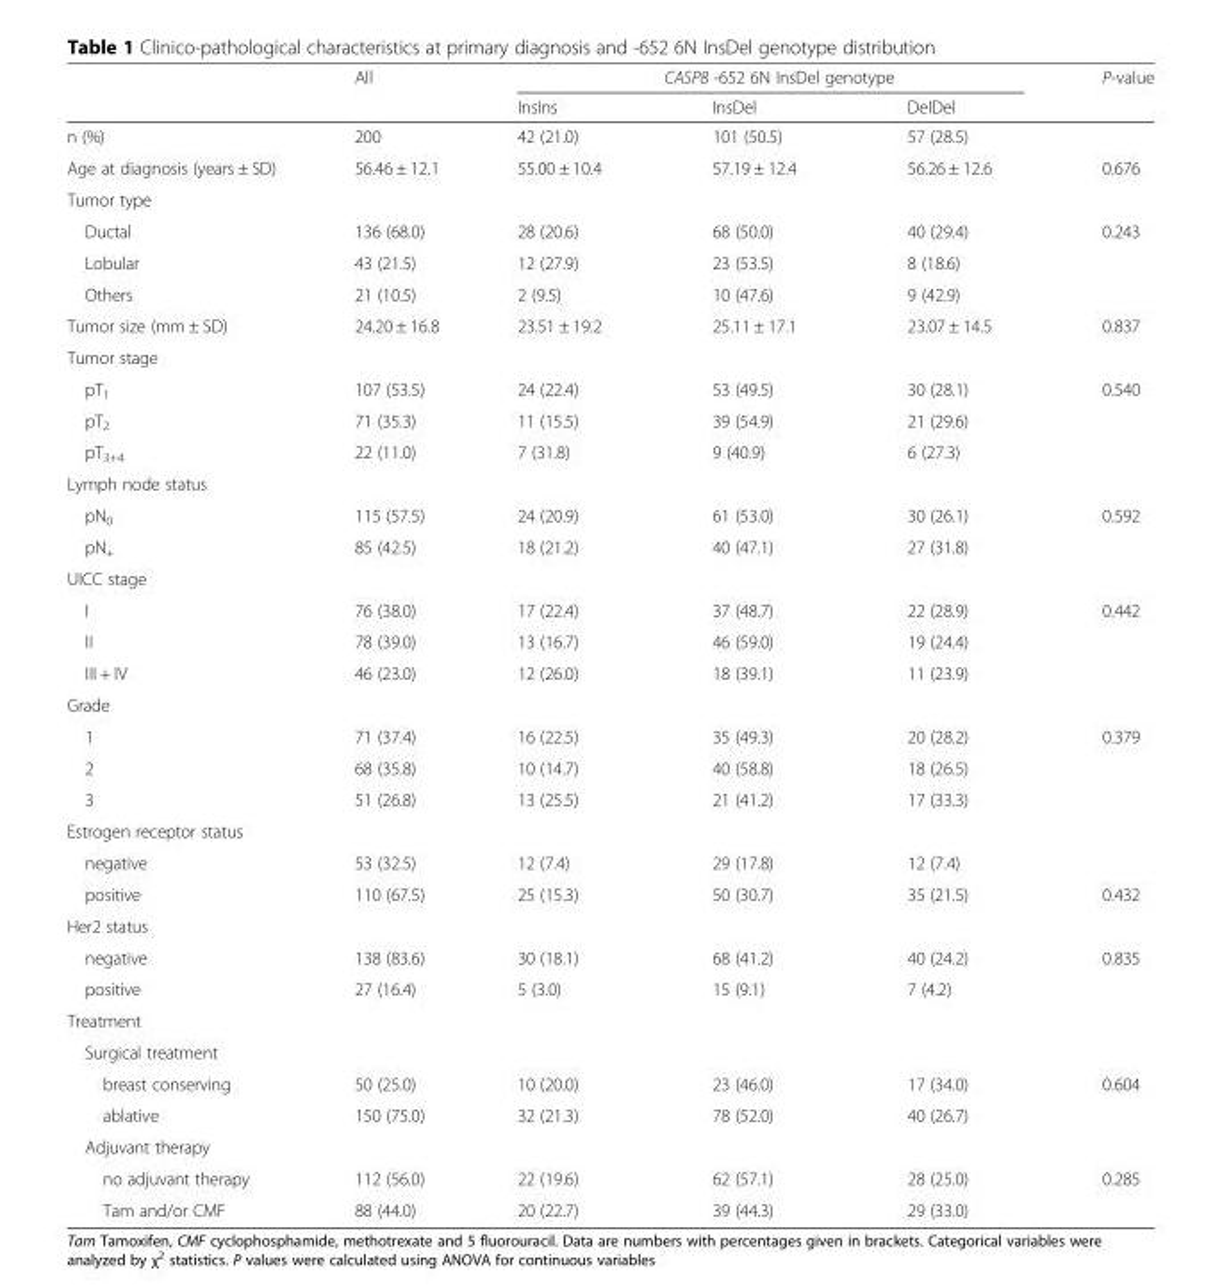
<table><thead><tr><td rowspan="2"></td><td rowspan="2">All</td><td colspan="3">CASP8 -652 6N InsDel genotype</td><td rowspan="2">P-value</td></tr><tr><td>InsIns</td><td>InsDel</td><td>DelDel</td></tr></thead><tbody><tr><td>n (%)</td><td>200</td><td>42 (21.0)</td><td>101 (50.5)</td><td>57 (28.5)</td><td></td></tr><tr><td>Age at diagnosis (years ± SD)</td><td>56.46 ± 12.1</td><td>55.00 ± 10.4</td><td>57.19 ± 12.4</td><td>56.26 ± 12.6</td><td>0.676</td></tr><tr><td colspan="6">Tumor type</td></tr><tr><td>Ductal</td><td>136 (68.0)</td><td>28 (20.6)</td><td>68 (50.0)</td><td>40 (29.4)</td><td rowspan="3">0.243</td></tr><tr><td>Lobular</td><td>43 (21.5)</td><td>12 (27.9)</td><td>23 (53.5)</td><td>8 (18.6)</td></tr><tr><td>Others</td><td>21 (10.5)</td><td>2 (9.5)</td><td>10 (47.6)</td><td>9 (42.9)</td></tr><tr><td>Tumor size (mm ± SD)</td><td>24.20 ± 16.8</td><td>23.51 ± 19.2</td><td>25.11 ± 17.1</td><td>23.07 ± 14.5</td><td>0.837</td></tr><tr><td colspan="6">Tumor stage</td></tr><tr><td>pT<sub>1</sub></td><td>107 (53.5)</td><td>24 (22.4)</td><td>53 (49.5)</td><td>30 (28.1)</td><td rowspan="3">0.540</td></tr><tr><td>pT<sub>2</sub></td><td>71 (35.3)</td><td>11 (15.5)</td><td>39 (54.9)</td><td>21 (29.6)</td></tr><tr><td>pT<sub>3+4</sub></td><td>22 (11.0)</td><td>7 (31.8)</td><td>9 (40.9)</td><td>6 (27.3)</td></tr><tr><td colspan="6">Lymph node status</td></tr><tr><td>pN<sub>0</sub></td><td>115 (57.5)</td><td>24 (20.9)</td><td>61 (53.0)</td><td>30 (26.1)</td><td rowspan="2">0.592</td></tr><tr><td>pN<sub>+</sub></td><td>85 (42.5)</td><td>18 (21.2)</td><td>40 (47.1)</td><td>27 (31.8)</td></tr><tr><td colspan="6">UICC stage</td></tr><tr><td>I</td><td>76 (38.0)</td><td>17 (22.4)</td><td>37 (48.7)</td><td>22 (28.9)</td><td rowspan="3">0.442</td></tr><tr><td>II</td><td>78 (39.0)</td><td>13 (16.7)</td><td>46 (59.0)</td><td>19 (24.4)</td></tr><tr><td>III + IV</td><td>46 (23.0)</td><td>12 (26.0)</td><td>18 (39.1)</td><td>11 (23.9)</td></tr><tr><td colspan="6">Grade</td></tr><tr><td>1</td><td>71 (37.4)</td><td>16 (22.5)</td><td>35 (49.3)</td><td>20 (28.2)</td><td rowspan="3">0.379</td></tr><tr><td>2</td><td>68 (35.8)</td><td>10 (14.7)</td><td>40 (58.8)</td><td>18 (26.5)</td></tr><tr><td>3</td><td>51 (26.8)</td><td>13 (25.5)</td><td>21 (41.2)</td><td>17 (33.3)</td></tr><tr><td colspan="6">Estrogen receptor status</td></tr><tr><td>negative</td><td>53 (32.5)</td><td>12 (7.4)</td><td>29 (17.8)</td><td>12 (7.4)</td><td></td></tr><tr><td>positive</td><td>110 (67.5)</td><td>25 (15.3)</td><td>50 (30.7)</td><td>35 (21.5)</td><td>0.432</td></tr><tr><td colspan="6">Her2 status</td></tr><tr><td>negative</td><td>138 (83.6)</td><td>30 (18.1)</td><td>68 (41.2)</td><td>40 (24.2)</td><td>0.835</td></tr><tr><td>positive</td><td>27 (16.4)</td><td>5 (3.0)</td><td>15 (9.1)</td><td>7 (4.2)</td><td></td></tr><tr><td colspan="6">Treatment</td></tr><tr><td colspan="6">Surgical treatment</td></tr><tr><td>breast conserving</td><td>50 (25.0)</td><td>10 (20.0)</td><td>23 (46.0)</td><td>17 (34.0)</td><td rowspan="2">0.604</td></tr><tr><td>ablative</td><td>150 (75.0)</td><td>32 (21.3)</td><td>78 (52.0)</td><td>40 (26.7)</td></tr><tr><td colspan="6">Adjuvant therapy</td></tr><tr><td>no adjuvant therapy</td><td>112 (56.0)</td><td>22 (19.6)</td><td>62 (57.1)</td><td>28 (25.0)</td><td rowspan="2">0.285</td></tr><tr><td>Tam and/or CMF</td><td>88 (44.0)</td><td>20 (22.7)</td><td>39 (44.3)</td><td>29 (33.0)</td></tr></tbody></table>